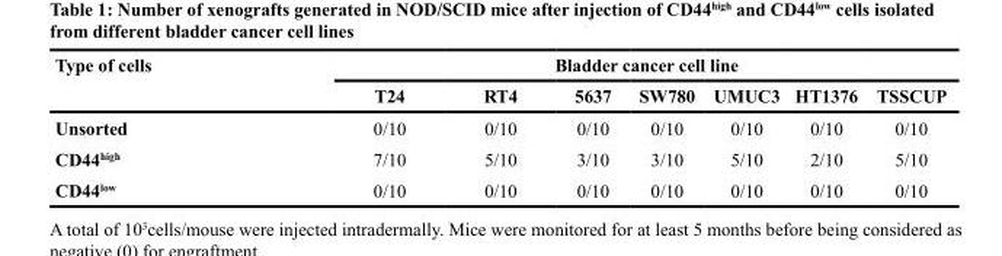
<table><thead><tr><td rowspan="2">Type of cells</td><td colspan="7">Bladder cancer cell line</td></tr><tr><td>T24</td><td>RT4</td><td>5637</td><td>SW780</td><td>UMUC3</td><td>HT1376</td><td>TSSCUP</td></tr></thead><tbody><tr><td>Unsorted</td><td>0/10</td><td>0/10</td><td>0/10</td><td>0/10</td><td>0/10</td><td>0/10</td><td>0/10</td></tr><tr><td>CD44<sup>high</sup></td><td>7/10</td><td>5/10</td><td>3/10</td><td>3/10</td><td>5/10</td><td>2/10</td><td>5/10</td></tr><tr><td>CD44<sup>low</sup></td><td>0/10</td><td>0/10</td><td>0/10</td><td>0/10</td><td>0/10</td><td>0/10</td><td>0/10</td></tr></tbody></table>